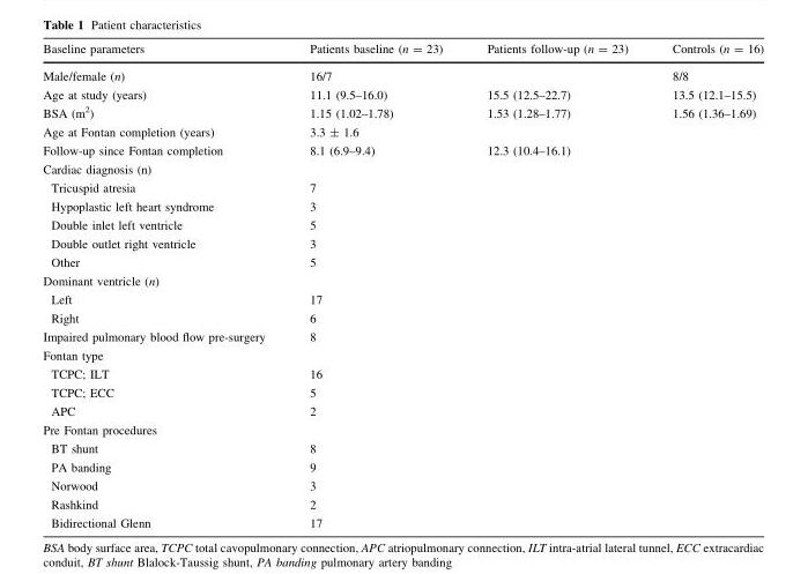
<table><thead><tr><td>Baseline parameters</td><td>Patients baseline (n = 23)</td><td>Patients follow-up (n = 23)</td><td>Controls (n = 16)</td></tr></thead><tbody><tr><td>Male/female (n)</td><td>16/7</td><td></td><td>8/8</td></tr><tr><td>Age at study (years)</td><td>11.1 (9.5–16.0)</td><td>15.5 (12.5–22.7)</td><td>13.5 (12.1–15.5)</td></tr><tr><td>BSA (m<sup>2</sup>)</td><td>1.15 (1.02–1.78)</td><td>1.53 (1.28–1.77)</td><td>1.56 (1.36–1.69)</td></tr><tr><td>Age at Fontan completion (years)</td><td>3.3 ± 1.6</td><td></td><td></td></tr><tr><td>Follow-up since Fontan completion</td><td>8.1 (6.9–9.4)</td><td>12.3 (10.4–16.1)</td><td></td></tr><tr><td colspan="4">Cardiac diagnosis (n)</td></tr><tr><td>Tricuspid atresia</td><td>7</td><td></td><td></td></tr><tr><td>Hypoplastic left heart syndrome</td><td>3</td><td></td><td></td></tr><tr><td>Double inlet left ventricle</td><td>5</td><td></td><td></td></tr><tr><td>Double outlet right ventricle</td><td>3</td><td></td><td></td></tr><tr><td>Other</td><td>5</td><td></td><td></td></tr><tr><td colspan="4">Dominant ventricle (n)</td></tr><tr><td>Left</td><td>17</td><td></td><td></td></tr><tr><td>Right</td><td>6</td><td></td><td></td></tr><tr><td>Impaired pulmonary blood flow pre-surgery</td><td>8</td><td></td><td></td></tr><tr><td colspan="4">Fontan type</td></tr><tr><td>TCPC; ILT</td><td>16</td><td></td><td></td></tr><tr><td>TCPC; ECC</td><td>5</td><td></td><td></td></tr><tr><td>APC</td><td>2</td><td></td><td></td></tr><tr><td colspan="4">Pre Fontan procedures</td></tr><tr><td>BT shunt</td><td>8</td><td></td><td></td></tr><tr><td>PA banding</td><td>9</td><td></td><td></td></tr><tr><td>Norwood</td><td>3</td><td></td><td></td></tr><tr><td>Rashkind</td><td>2</td><td></td><td></td></tr><tr><td>Bidirectional Glenn</td><td>17</td><td></td><td></td></tr></tbody></table>